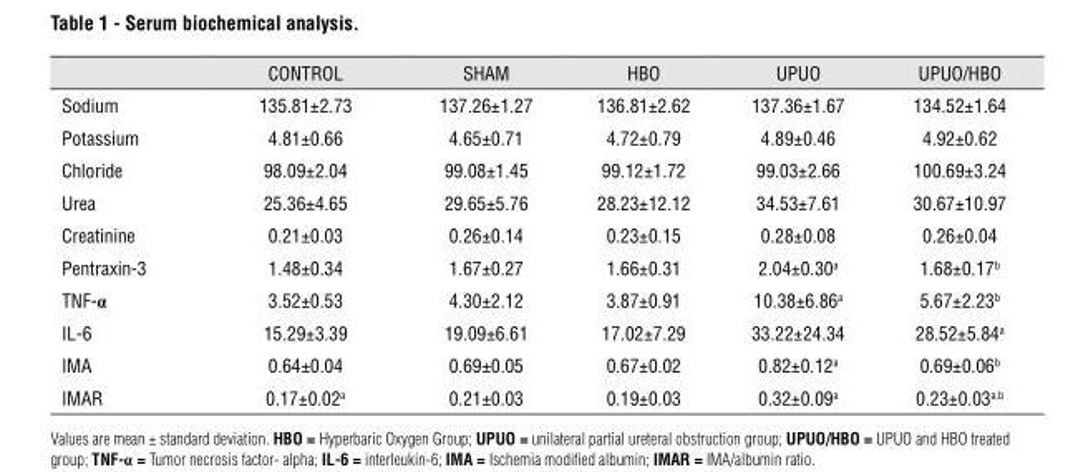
<table><thead><tr><td></td><td>CONTROL</td><td>SHAM</td><td>HBO</td><td>UPUO</td><td>UPUO/HBO</td></tr></thead><tbody><tr><td>Sodium</td><td>135.81±2.73</td><td>137.26±1.27</td><td>136.81±2.62</td><td>137.36±1.67</td><td>134.52±1.64</td></tr><tr><td>Potassium</td><td>4.81±0.66</td><td>4.65±0.71</td><td>4.72±0.79</td><td>4.89±0.46</td><td>4.92±0.62</td></tr><tr><td>Chloride</td><td>98.09±2.04</td><td>99.08±1.45</td><td>99.12±1.72</td><td>99.03±2.66</td><td>100.69±3.24</td></tr><tr><td>Urea</td><td>25.36±4.65</td><td>29.65±5.76</td><td>28.23±12.12</td><td>34.53±7.61</td><td>30.67±10.97</td></tr><tr><td>Creatinine</td><td>0.21±0.03</td><td>0.26±0.14</td><td>0.23±0.15</td><td>0.28±0.08</td><td>0.26±0.04</td></tr><tr><td>Pentraxin-3</td><td>1.48±0.34</td><td>1.67±0.27</td><td>1.66±0.31</td><td>2.04±0.30<sup>a</sup></td><td>1.68±0.17<sup>b</sup></td></tr><tr><td>TNF-α</td><td>3.52±0.53</td><td>4.30±2.12</td><td>3.87±0.91</td><td>10.38±6.86<sup>a</sup></td><td>5.67±2.23<sup>b</sup></td></tr><tr><td>IL-6</td><td>15.29±3.39</td><td>19.09±6.61</td><td>17.02±7.29</td><td>33.22±24.34</td><td>28.52±5.84<sup>a</sup></td></tr><tr><td>IMA</td><td>0.64±0.04</td><td>0.69±0.05</td><td>0.67±0.02</td><td>0.82±0.12<sup>a</sup></td><td>0.69±0.06<sup>b</sup></td></tr><tr><td>IMAR</td><td>0.17±0.02<sup>a</sup></td><td>0.21±0.03</td><td>0.19±0.03</td><td>0.32±0.09<sup>a</sup></td><td>0.23±0.03<sup>a</sup>,<sup>b</sup></td></tr></tbody></table>